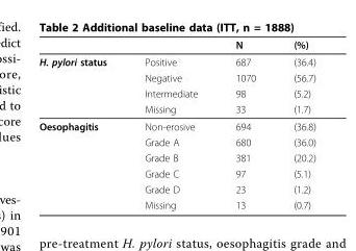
<table><thead><tr><td></td><td></td><td>N</td><td>(%)</td></tr></thead><tbody><tr><td rowspan="4">H. pylori status</td><td>Positive</td><td>687</td><td>(36.4)</td></tr><tr><td>Negative</td><td>1070</td><td>(56.7)</td></tr><tr><td>Intermediate</td><td>98</td><td>(5.2)</td></tr><tr><td>Missing</td><td>33</td><td>(1.7)</td></tr><tr><td rowspan="6">Oesophagitis</td><td>Non-erosive</td><td>694</td><td>(36.8)</td></tr><tr><td>Grade A</td><td>680</td><td>(36.0)</td></tr><tr><td>Grade B</td><td>381</td><td>(20.2)</td></tr><tr><td>Grade C</td><td>97</td><td>(5.1)</td></tr><tr><td>Grade D</td><td>23</td><td>(1.2)</td></tr><tr><td>Missing</td><td>13</td><td>(0.7)</td></tr></tbody></table>